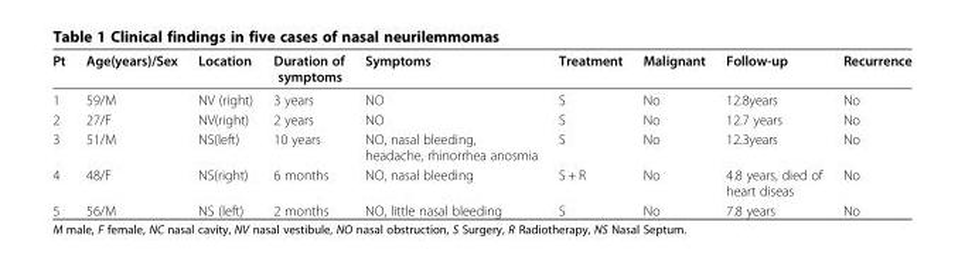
<table><thead><tr><td>Pt</td><td>Age(years)/Sex</td><td>Location</td><td>Duration of symptoms</td><td>Symptoms</td><td>Treatment</td><td>Malignant</td><td>Follow-up</td><td>Recurrence</td></tr></thead><tbody><tr><td>1</td><td>59/M</td><td>NV (right)</td><td>3 years</td><td>NO</td><td>S</td><td>No</td><td>12.8years</td><td>No</td></tr><tr><td>2</td><td>27/F</td><td>NV(right)</td><td>2 years</td><td>NO</td><td>S</td><td>No</td><td>12.7 years</td><td>No</td></tr><tr><td>3</td><td>51/M</td><td>NS(left)</td><td>10 years</td><td>NO, nasal bleeding, headache, rhinorrhea anosmia</td><td>S</td><td>No</td><td>12.3years</td><td>No</td></tr><tr><td>4</td><td>48/F</td><td>NS(right)</td><td>6 months</td><td>NO, nasal bleeding</td><td>S + R</td><td>No</td><td>4.8 years, died of heart diseas</td><td>No</td></tr><tr><td>5</td><td>56/M</td><td>NS (left)</td><td>2 months</td><td>NO, little nasal bleeding</td><td>S</td><td>No</td><td>7.8 years</td><td>No</td></tr></tbody></table>